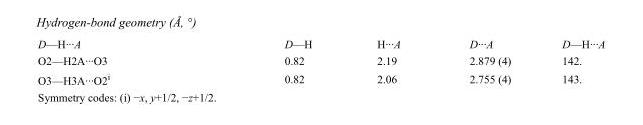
<table><tbody><tr><td>D—H···A</td><td>D—H</td><td>H···A</td><td>D···A</td><td>D—H···A</td></tr><tr><td>O2—H2A···O3</td><td>0.82</td><td>2.19</td><td>2.879 (4)</td><td>142.</td></tr><tr><td>O3—H3A···O2<sup>i</sup></td><td>0.82</td><td>2.06</td><td>2.755 (4)</td><td>143.</td></tr></tbody></table>